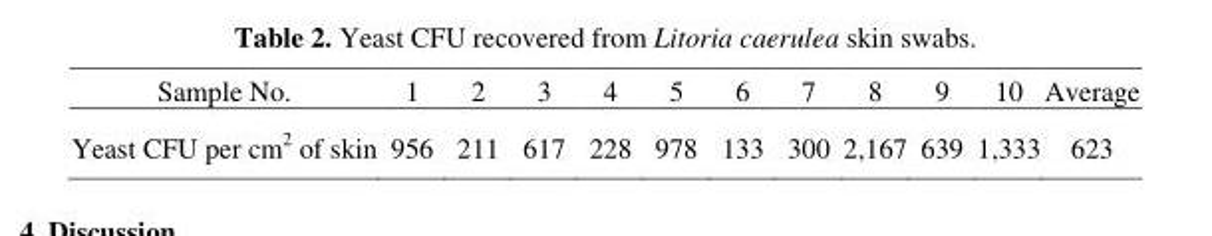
<table><thead><tr><td>Sample No.</td><td>1</td><td>2</td><td>3</td><td>4</td><td>5</td><td>6</td><td>7</td><td>8</td><td>9</td><td>10</td><td>Average</td></tr></thead><tbody><tr><td>Yeast CFU per cm<sup>2</sup> of skin</td><td>956</td><td>211</td><td>617</td><td>228</td><td>978</td><td>133</td><td>300</td><td>2,167</td><td>639</td><td>1,333</td><td>623</td></tr></tbody></table>